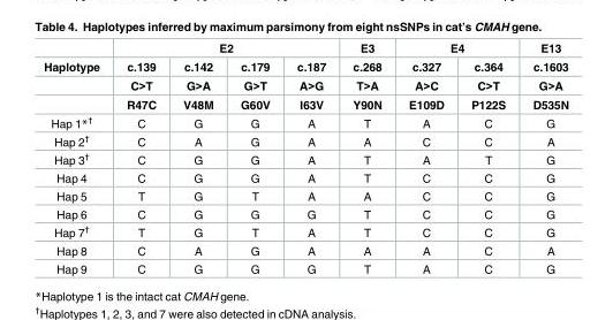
<table><thead><tr><td rowspan="4">Haplotype</td><td colspan="4">E2</td><td rowspan="4">E3 c.268 T&gt;A Y90N</td><td colspan="2">E4</td><td rowspan="4">E13 c.1603 G&gt;A D535N</td></tr><tr><td rowspan="3">c.139 C&gt;T R47C</td><td rowspan="3">c.142 G&gt;A V48M</td><td rowspan="3">c.179 G&gt;T G60V</td><td rowspan="3">c.187 A&gt;G I63V</td><td rowspan="3">c.327 A&gt;C E109D</td><td rowspan="3">c.364 C&gt;T P122S</td></tr><tr></tr><tr></tr></thead><tbody><tr><td>Hap 1*<sup>†</sup></td><td>C</td><td>G</td><td>G</td><td>A</td><td>T</td><td>A</td><td>C</td><td>G</td></tr><tr><td>Hap 2<sup>†</sup></td><td>C</td><td>A</td><td>G</td><td>A</td><td>A</td><td>C</td><td>C</td><td>A</td></tr><tr><td>Hap 3<sup>†</sup></td><td>C</td><td>G</td><td>G</td><td>A</td><td>T</td><td>A</td><td>T</td><td>G</td></tr><tr><td>Hap 4</td><td>C</td><td>G</td><td>G</td><td>A</td><td>T</td><td>C</td><td>C</td><td>G</td></tr><tr><td>Hap 5</td><td>T</td><td>G</td><td>T</td><td>A</td><td>A</td><td>C</td><td>C</td><td>G</td></tr><tr><td>Hap 6</td><td>C</td><td>G</td><td>G</td><td>G</td><td>T</td><td>C</td><td>C</td><td>G</td></tr><tr><td>Hap 7<sup>†</sup></td><td>T</td><td>G</td><td>T</td><td>A</td><td>T</td><td>C</td><td>C</td><td>G</td></tr><tr><td>Hap 8</td><td>C</td><td>A</td><td>G</td><td>A</td><td>A</td><td>A</td><td>C</td><td>A</td></tr><tr><td>Hap 9</td><td>C</td><td>G</td><td>G</td><td>G</td><td>T</td><td>A</td><td>C</td><td>G</td></tr></tbody></table>